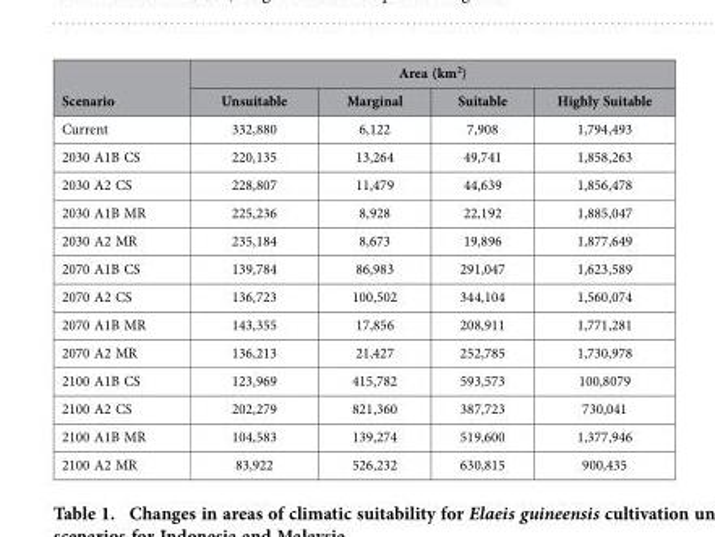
<table><thead><tr><td rowspan="2">Scenario</td><td colspan="4">Area (km<sup>2</sup>)</td></tr><tr><td>Unsuitable</td><td>Marginal</td><td>Suitable</td><td>Highly Suitable</td></tr></thead><tbody><tr><td>Current</td><td>332,880</td><td>6,122</td><td>7,908</td><td>1,794,493</td></tr><tr><td>2030 A1B CS</td><td>220,135</td><td>13,264</td><td>49,741</td><td>1,858,263</td></tr><tr><td>2030 A2 CS</td><td>228,807</td><td>11,479</td><td>44,639</td><td>1,856,478</td></tr><tr><td>2030 A1B MR</td><td>225,236</td><td>8,928</td><td>22,192</td><td>1,885,047</td></tr><tr><td>2030 A2 MR</td><td>235,184</td><td>8,673</td><td>19,896</td><td>1,877,649</td></tr><tr><td>2070 A1B CS</td><td>139,784</td><td>86,983</td><td>291,047</td><td>1,623,589</td></tr><tr><td>2070 A2 CS</td><td>136,723</td><td>100,502</td><td>344,104</td><td>1,560,074</td></tr><tr><td>2070 A1B MR</td><td>143,355</td><td>17,856</td><td>208,911</td><td>1,771,281</td></tr><tr><td>2070 A2 MR</td><td>136,213</td><td>21,427</td><td>252,785</td><td>1,730,978</td></tr><tr><td>2100 A1B CS</td><td>123,969</td><td>415,782</td><td>593,573</td><td>100,8079</td></tr><tr><td>2100 A2 CS</td><td>202,279</td><td>821,360</td><td>387,723</td><td>730,041</td></tr><tr><td>2100 A1B MR</td><td>104,583</td><td>139,274</td><td>519,600</td><td>1,377,946</td></tr><tr><td>2100 A2 MR</td><td>83,922</td><td>526,232</td><td>630,815</td><td>900,435</td></tr></tbody></table>